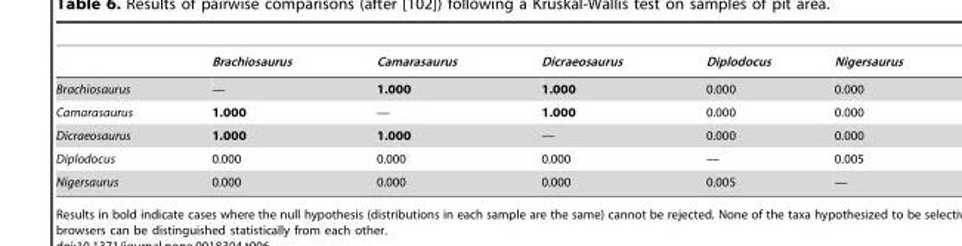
<table><thead><tr><td></td><td>Brachiosaurus</td><td>Camarasaurus</td><td>Dicraeosaurus</td><td>Diplodocus</td><td>Nigersaurus</td></tr></thead><tbody><tr><td>Brachiosaurus</td><td>—</td><td>1.000</td><td>1.000</td><td>0.000</td><td>0.000</td></tr><tr><td>Camarasaurus</td><td>1.000</td><td>—</td><td>1.000</td><td>0.000</td><td>0.000</td></tr><tr><td>Dicraeosaurus</td><td>1.000</td><td>1.000</td><td>—</td><td>0.000</td><td>0.000</td></tr><tr><td>Diplodocus</td><td>0.000</td><td>0.000</td><td>0.000</td><td>—</td><td>0.005</td></tr><tr><td>Nigersaurus</td><td>0.000</td><td>0.000</td><td>0.000</td><td>0.005</td><td>—</td></tr></tbody></table>